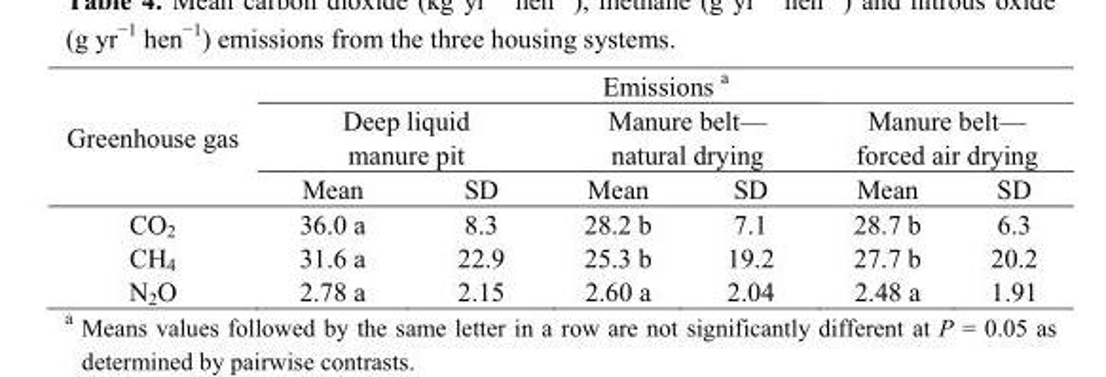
<table><thead><tr><td rowspan="3">Greenhouse gas</td><td colspan="6">Emissions <sup>a</sup></td></tr><tr><td colspan="2">Deep liquid manure pit</td><td colspan="2">Manure belt— natural drying</td><td colspan="2">Manure belt— forced air drying</td></tr><tr><td>Mean</td><td>SD</td><td>Mean</td><td>SD</td><td>Mean</td><td>SD</td></tr></thead><tbody><tr><td>CO<sub>2</sub></td><td>36.0 a</td><td>8.3</td><td>28.2 b</td><td>7.1</td><td>28.7 b</td><td>6.3</td></tr><tr><td>CH<sub>4</sub></td><td>31.6 a</td><td>22.9</td><td>25.3 b</td><td>19.2</td><td>27.7 b</td><td>20.2</td></tr><tr><td>N<sub>2</sub>O</td><td>2.78 a</td><td>2.15</td><td>2.60 a</td><td>2.04</td><td>2.48 a</td><td>1.91</td></tr></tbody></table>